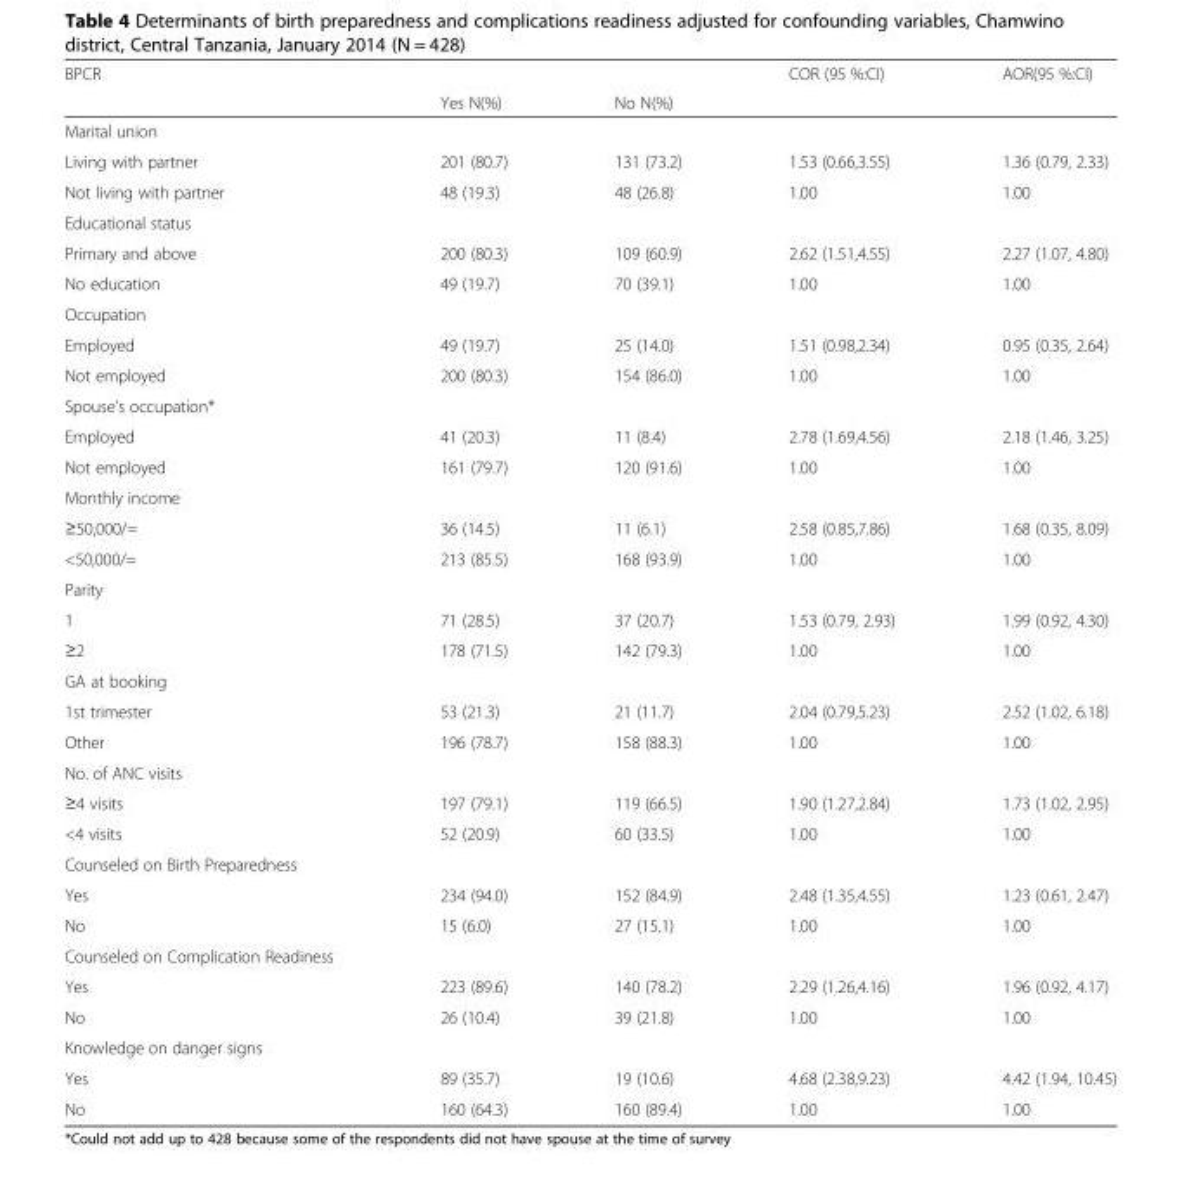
<table><thead><tr><td colspan="3">BPCR</td><td rowspan="2">COR (95 %:CI)</td><td rowspan="2">AOR(95 %:CI)</td></tr><tr><td></td><td>Yes N(%)</td><td>No N(%)</td></tr></thead><tbody><tr><td colspan="5">Marital union</td></tr><tr><td>Living with partner</td><td>201 (80.7)</td><td>131 (73.2)</td><td>1.53 (0.66,3.55)</td><td>1.36 (0.79, 2.33)</td></tr><tr><td>Not living with partner</td><td>48 (19.3)</td><td>48 (26.8)</td><td>1.00</td><td>1.00</td></tr><tr><td colspan="5">Educational status</td></tr><tr><td>Primary and above</td><td>200 (80.3)</td><td>109 (60.9)</td><td>2.62 (1.51,4.55)</td><td>2.27 (1.07, 4.80)</td></tr><tr><td>No education</td><td>49 (19.7)</td><td>70 (39.1)</td><td>1.00</td><td>1.00</td></tr><tr><td colspan="5">Occupation</td></tr><tr><td>Employed</td><td>49 (19.7)</td><td>25 (14.0)</td><td>1.51 (0.98,2.34)</td><td>0.95 (0.35, 2.64)</td></tr><tr><td>Not employed</td><td>200 (80.3)</td><td>154 (86.0)</td><td>1.00</td><td>1.00</td></tr><tr><td colspan="5">Spouse’s occupation*</td></tr><tr><td>Employed</td><td>41 (20.3)</td><td>11 (8.4)</td><td>2.78 (1.69,4.56)</td><td>2.18 (1.46, 3.25)</td></tr><tr><td>Not employed</td><td>161 (79.7)</td><td>120 (91.6)</td><td>1.00</td><td>1.00</td></tr><tr><td colspan="5">Monthly income</td></tr><tr><td>≥50,000/=</td><td>36 (14.5)</td><td>11 (6.1)</td><td>2.58 (0.85,7.86)</td><td>1.68 (0.35, 8.09)</td></tr><tr><td>&lt;50,000/=</td><td>213 (85.5)</td><td>168 (93.9)</td><td>1.00</td><td>1.00</td></tr><tr><td colspan="5">Parity</td></tr><tr><td>1</td><td>71 (28.5)</td><td>37 (20.7)</td><td>1.53 (0.79, 2.93)</td><td>1.99 (0.92, 4.30)</td></tr><tr><td>≥2</td><td>178 (71.5)</td><td>142 (79.3)</td><td>1.00</td><td>1.00</td></tr><tr><td colspan="5">GA at booking</td></tr><tr><td>1st trimester</td><td>53 (21.3)</td><td>21 (11.7)</td><td>2.04 (0.79,5.23)</td><td>2.52 (1.02, 6.18)</td></tr><tr><td>Other</td><td>196 (78.7)</td><td>158 (88.3)</td><td>1.00</td><td>1.00</td></tr><tr><td colspan="5">No. of ANC visits</td></tr><tr><td>≥4 visits</td><td>197 (79.1)</td><td>119 (66.5)</td><td>1.90 (1.27,2.84)</td><td>1.73 (1.02, 2.95)</td></tr><tr><td>&lt;4 visits</td><td>52 (20.9)</td><td>60 (33.5)</td><td>1.00</td><td>1.00</td></tr><tr><td colspan="5">Counseled on Birth Preparedness</td></tr><tr><td>Yes</td><td>234 (94.0)</td><td>152 (84.9)</td><td>2.48 (1.35,4.55)</td><td>1.23 (0.61, 2.47)</td></tr><tr><td>No</td><td>15 (6.0)</td><td>27 (15.1)</td><td>1.00</td><td>1.00</td></tr><tr><td colspan="5">Counseled on Complication Readiness</td></tr><tr><td>Yes</td><td>223 (89.6)</td><td>140 (78.2)</td><td>2.29 (1.26,4.16)</td><td>1.96 (0.92, 4.17)</td></tr><tr><td>No</td><td>26 (10.4)</td><td>39 (21.8)</td><td>1.00</td><td>1.00</td></tr><tr><td colspan="5">Knowledge on danger signs</td></tr><tr><td>Yes</td><td>89 (35.7)</td><td>19 (10.6)</td><td>4.68 (2.38,9.23)</td><td>4.42 (1.94, 10.45)</td></tr><tr><td>No</td><td>160 (64.3)</td><td>160 (89.4)</td><td>1.00</td><td>1.00</td></tr></tbody></table>